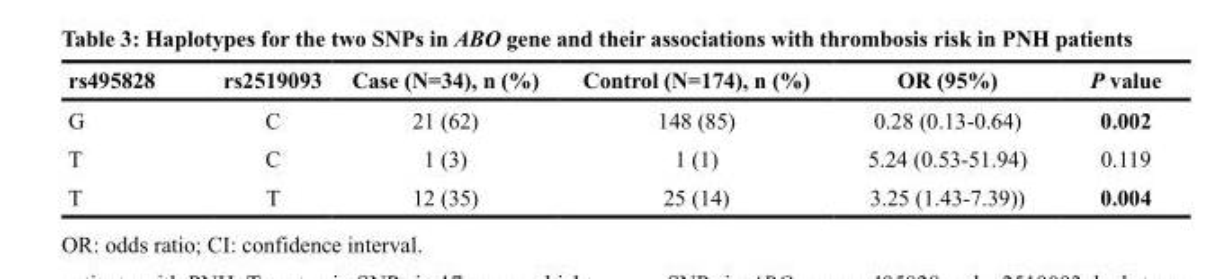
<table><thead><tr><td>rs495828</td><td>rs2519093</td><td>Case (N=34), n (%)</td><td>Control (N=174), n (%)</td><td>OR (95%)</td><td>P value</td></tr></thead><tbody><tr><td>G</td><td>C</td><td>21 (62)</td><td>148 (85)</td><td>0.28 (0.13-0.64)</td><td>0.002</td></tr><tr><td>T</td><td>C</td><td>1 (3)</td><td>1 (1)</td><td>5.24 (0.53-51.94)</td><td>0.119</td></tr><tr><td>T</td><td>T</td><td>12 (35)</td><td>25 (14)</td><td>3.25 (1.43-7.39))</td><td>0.004</td></tr></tbody></table>